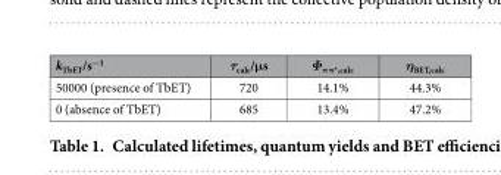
<table><thead><tr><td>k<sub>TbET</sub>/s<sup>−1</sup></td><td>τ<sub>calc</sub>/μs</td><td>Φ<sub>ππ*,calc</sub></td><td>η<sub>BET,calc</sub></td></tr></thead><tbody><tr><td>50000 (presence of TbET)</td><td>720</td><td>14.1%</td><td>44.3%</td></tr><tr><td>0 (absence of TbET)</td><td>685</td><td>13.4%</td><td>47.2%</td></tr></tbody></table>